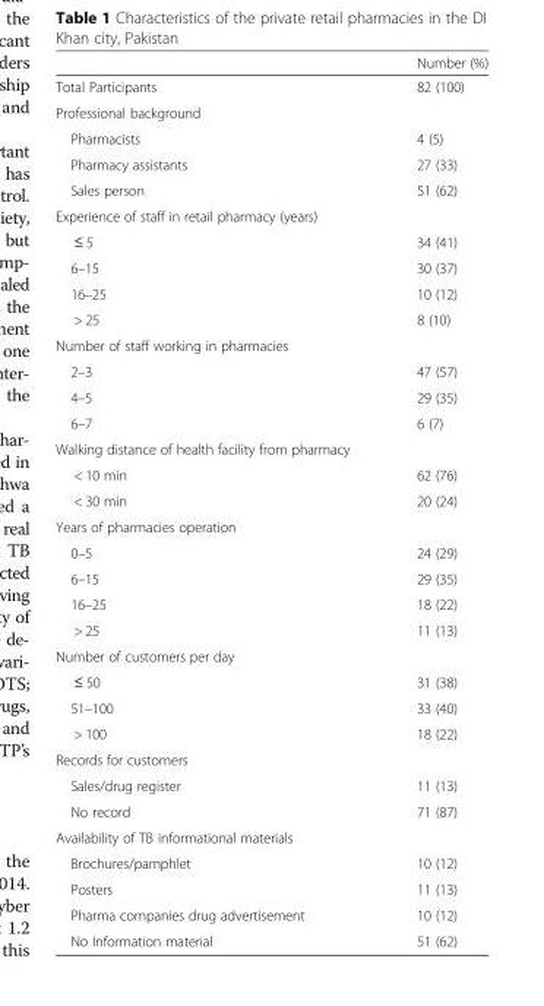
<table><thead><tr><td></td><td>Number (%)</td></tr></thead><tbody><tr><td>Total Participants</td><td>82 (100)</td></tr><tr><td colspan="2">Professional background</td></tr><tr><td>Pharmacists</td><td>4 (5)</td></tr><tr><td>Pharmacy assistants</td><td>27 (33)</td></tr><tr><td>Sales person</td><td>51 (62)</td></tr><tr><td colspan="2">Experience of staff in retail pharmacy (years)</td></tr><tr><td>≤ 5</td><td>34 (41)</td></tr><tr><td>6–15</td><td>30 (37)</td></tr><tr><td>16–25</td><td>10 (12)</td></tr><tr><td>&gt; 25</td><td>8 (10)</td></tr><tr><td colspan="2">Number of staff working in pharmacies</td></tr><tr><td>2–3</td><td>47 (57)</td></tr><tr><td>4–5</td><td>29 (35)</td></tr><tr><td>6–7</td><td>6 (7)</td></tr><tr><td colspan="2">Walking distance of health facility from pharmacy</td></tr><tr><td>&lt; 10 min</td><td>62 (76)</td></tr><tr><td>&lt; 30 min</td><td>20 (24)</td></tr><tr><td colspan="2">Years of pharmacies operation</td></tr><tr><td>0–5</td><td>24 (29)</td></tr><tr><td>6–15</td><td>29 (35)</td></tr><tr><td>16–25</td><td>18 (22)</td></tr><tr><td>&gt; 25</td><td>11 (13)</td></tr><tr><td colspan="2">Number of customers per day</td></tr><tr><td>≤ 50</td><td>31 (38)</td></tr><tr><td>51–100</td><td>33 (40)</td></tr><tr><td>&gt; 100</td><td>18 (22)</td></tr><tr><td colspan="2">Records for customers</td></tr><tr><td>Sales/drug register</td><td>11 (13)</td></tr><tr><td>No record</td><td>71 (87)</td></tr><tr><td colspan="2">Availability of TB informational materials</td></tr><tr><td>Brochures/pamphlet</td><td>10 (12)</td></tr><tr><td>Posters</td><td>11 (13)</td></tr><tr><td>Pharma companies drug advertisement</td><td>10 (12)</td></tr><tr><td>No Information material</td><td>51 (62)</td></tr></tbody></table>